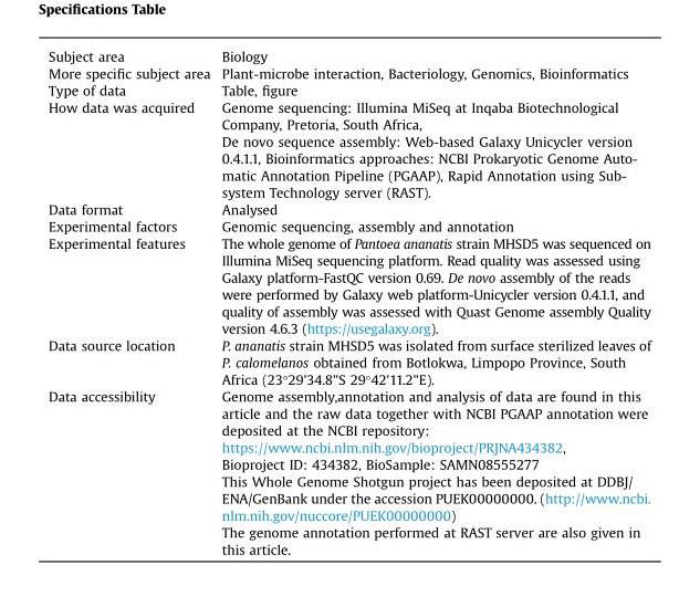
<table><tbody><tr><td>Subject area</td><td>Biology</td></tr><tr><td>More specific subject area</td><td>Plant-microbe interaction, Bacteriology, Genomics, Bioinformatics</td></tr><tr><td>Type of data</td><td>Table, figure</td></tr><tr><td rowspan="2">How data was acquired</td><td>Genome sequencing: Illumina MiSeq at Inqaba Biotechnological Company, Pretoria, South Africa,</td></tr><tr><td>De novo sequence assembly: Web-based Galaxy Unicycler version 0.4.1.1, Bioinformatics approaches: NCBI Prokaryotic Genome Auto- matic Annotation Pipeline (PGAAP), Rapid Annotation using Sub- system Technology server (RAST).</td></tr><tr><td>Data format</td><td>Analysed</td></tr><tr><td>Experimental factors</td><td>Genomic sequencing, assembly and annotation</td></tr><tr><td>Experimental features</td><td>The whole genome of Pantoea ananatis strain MHSD5 was sequenced on Illumina MiSeq sequencing platform. Read quality was assessed using Galaxy platform-FastQC version 0.69. De novo assembly of the reads were performed by Galaxy web platform-Unicycler version 0.4.1.1, and quality of assembly was assessed with Quast Genome assembly Quality version 4.6.3 (https://usegalaxy.org).</td></tr><tr><td>Data source location</td><td>P. ananatis strain MHSD5 was isolated from surface sterilized leaves of P. calomelanos obtained from Botlokwa, Limpopo Province, South Africa (23°29&#x27;34.8&quot;S 29°42&#x27;11.2&quot;E).</td></tr><tr><td rowspan="5">Data accessibility</td><td>Genome assembly,annotation and analysis of data are found in this article and the raw data together with NCBI PGAAP annotation were deposited at the NCBI repository:</td></tr><tr><td>https://www.ncbi.nlm.nih.gov/bioproject/PRJNA434382,</td></tr><tr><td>Bioproject ID: 434382, BioSample: SAMN08555277</td></tr><tr><td>This Whole Genome Shotgun project has been deposited at DDBJ/ ENA/GenBank under the accession PUEK00000000. (http://www.ncbi. nlm.nih.gov/nuccore/PUEK00000000)</td></tr><tr><td>The genome annotation performed at RAST server are also given in this article.</td></tr></tbody></table>